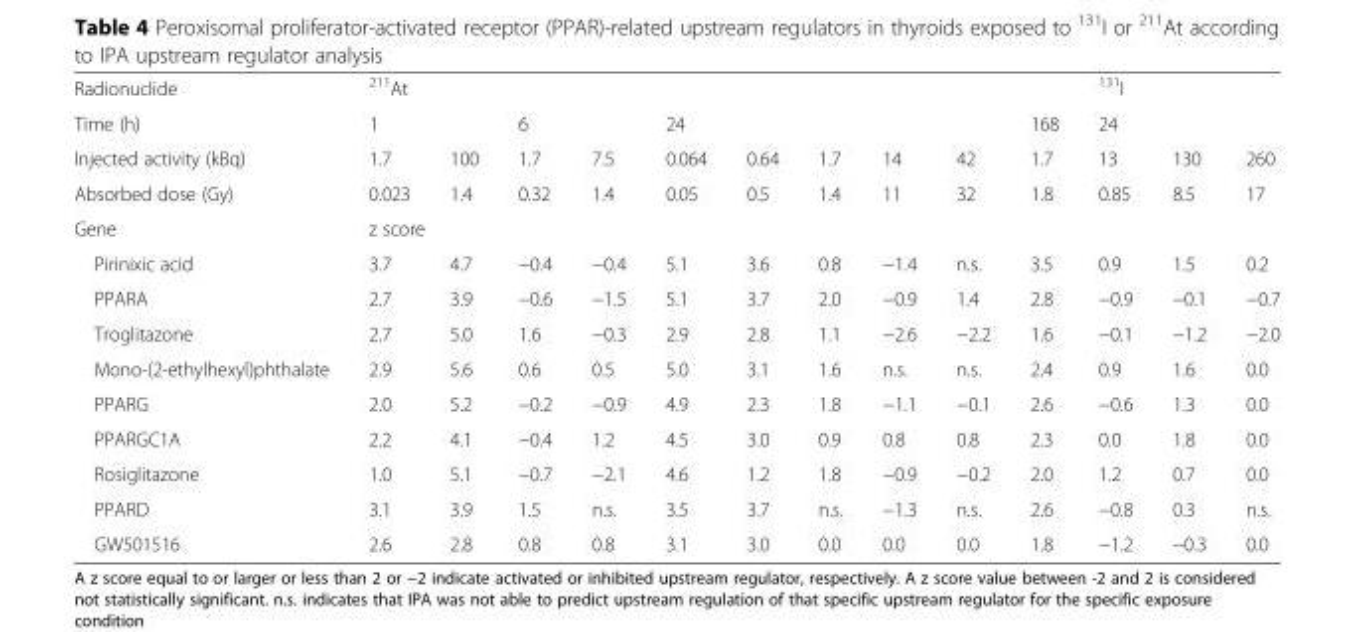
<table><tbody><tr><td>Radionuclide</td><td colspan="10"><sup>211</sup>At</td><td colspan="3"><sup>131</sup>I</td></tr><tr><td>Time (h)</td><td colspan="2">1</td><td colspan="2">6</td><td colspan="5">24</td><td>168</td><td colspan="3">24</td></tr><tr><td>Injected activity (kBq)</td><td>1.7</td><td>100</td><td>1.7</td><td>7.5</td><td>0.064</td><td>0.64</td><td>1.7</td><td>14</td><td>42</td><td>1.7</td><td>13</td><td>130</td><td>260</td></tr><tr><td>Absorbed dose (Gy)</td><td>0.023</td><td>1.4</td><td>0.32</td><td>1.4</td><td>0.05</td><td>0.5</td><td>1.4</td><td>11</td><td>32</td><td>1.8</td><td>0.85</td><td>8.5</td><td>17</td></tr><tr><td>Gene</td><td colspan="13">z score</td></tr><tr><td>Pirinixic acid</td><td>3.7</td><td>4.7</td><td>−0.4</td><td>−0.4</td><td>5.1</td><td>3.6</td><td>0.8</td><td>−1.4</td><td>n.s.</td><td>3.5</td><td>0.9</td><td>1.5</td><td>0.2</td></tr><tr><td>PPARA</td><td>2.7</td><td>3.9</td><td>−0.6</td><td>−1.5</td><td>5.1</td><td>3.7</td><td>2.0</td><td>−0.9</td><td>1.4</td><td>2.8</td><td>−0.9</td><td>−0.1</td><td>−0.7</td></tr><tr><td>Troglitazone</td><td>2.7</td><td>5.0</td><td>1.6</td><td>−0.3</td><td>2.9</td><td>2.8</td><td>1.1</td><td>−2.6</td><td>−2.2</td><td>1.6</td><td>−0.1</td><td>−1.2</td><td>−2.0</td></tr><tr><td>Mono-(2-ethylhexyl)phthalate</td><td>2.9</td><td>5.6</td><td>0.6</td><td>0.5</td><td>5.0</td><td>3.1</td><td>1.6</td><td>n.s.</td><td>n.s.</td><td>2.4</td><td>0.9</td><td>1.6</td><td>0.0</td></tr><tr><td>PPARG</td><td>2.0</td><td>5.2</td><td>−0.2</td><td>−0.9</td><td>4.9</td><td>2.3</td><td>1.8</td><td>−1.1</td><td>−0.1</td><td>2.6</td><td>−0.6</td><td>1.3</td><td>0.0</td></tr><tr><td>PPARGC1A</td><td>2.2</td><td>4.1</td><td>−0.4</td><td>1.2</td><td>4.5</td><td>3.0</td><td>0.9</td><td>0.8</td><td>0.8</td><td>2.3</td><td>0.0</td><td>1.8</td><td>0.0</td></tr><tr><td>Rosiglitazone</td><td>1.0</td><td>5.1</td><td>−0.7</td><td>−2.1</td><td>4.6</td><td>1.2</td><td>1.8</td><td>−0.9</td><td>−0.2</td><td>2.0</td><td>1.2</td><td>0.7</td><td>0.0</td></tr><tr><td>PPARD</td><td>3.1</td><td>3.9</td><td>1.5</td><td>n.s.</td><td>3.5</td><td>3.7</td><td>n.s.</td><td>−1.3</td><td>n.s.</td><td>2.6</td><td>−0.8</td><td>0.3</td><td>n.s.</td></tr><tr><td>GW501516</td><td>2.6</td><td>2.8</td><td>0.8</td><td>0.8</td><td>3.1</td><td>3.0</td><td>0.0</td><td>0.0</td><td>0.0</td><td>1.8</td><td>−1.2</td><td>−0.3</td><td>0.0</td></tr></tbody></table>